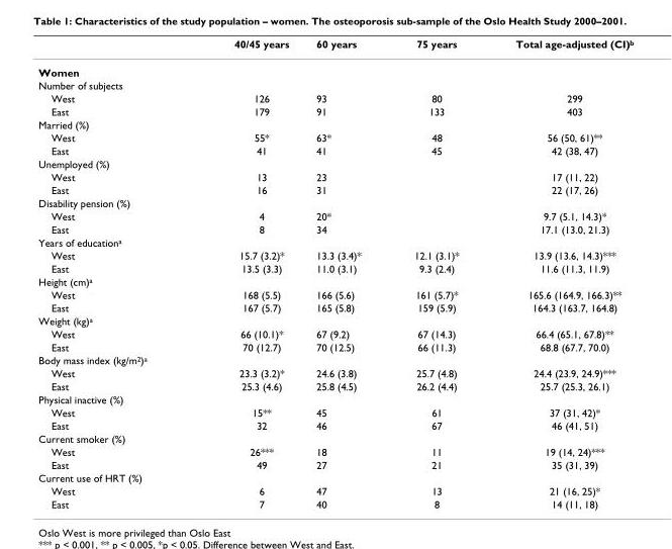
<table><thead><tr><td></td><td>40/45 years</td><td>60 years</td><td>75 years</td><td>Total age-adjusted (CI)<sup>b</sup></td></tr></thead><tbody><tr><td colspan="5">Women</td></tr><tr><td colspan="5">Number of subjects</td></tr><tr><td>West</td><td>126</td><td>93</td><td>80</td><td>299</td></tr><tr><td>East</td><td>179</td><td>91</td><td>133</td><td>403</td></tr><tr><td colspan="5">Married (%)</td></tr><tr><td>West</td><td>55*</td><td>63*</td><td>48</td><td>56 (50, 61)**</td></tr><tr><td>East</td><td>41</td><td>41</td><td>45</td><td>42 (38, 47)</td></tr><tr><td colspan="5">Unemployed (%)</td></tr><tr><td>West</td><td>13</td><td>23</td><td></td><td>17 (11, 22)</td></tr><tr><td>East</td><td>16</td><td>31</td><td></td><td>22 (17, 26)</td></tr><tr><td colspan="5">Disability pension (%)</td></tr><tr><td>West</td><td>4</td><td>20*</td><td></td><td>9.7 (5.1, 14.3)*</td></tr><tr><td>East</td><td>8</td><td>34</td><td></td><td>17.1 (13.0, 21.3)</td></tr><tr><td colspan="5">Years of education<sup>a</sup></td></tr><tr><td>West</td><td>15.7 (3.2)*</td><td>13.3 (3.4)*</td><td>12.1 (3.1)*</td><td>13.9 (13.6, 14.3)***</td></tr><tr><td>East</td><td>13.5 (3.3)</td><td>11.0 (3.1)</td><td>9.3 (2.4)</td><td>11.6 (11.3, 11.9)</td></tr><tr><td colspan="5">Height (cm)<sup>a</sup></td></tr><tr><td>West</td><td>168 (5.5)</td><td>166 (5.6)</td><td>161 (5.7)*</td><td>165.6 (164.9, 166.3)**</td></tr><tr><td>East</td><td>167 (5.7)</td><td>165 (5.8)</td><td>159 (5.9)</td><td>164.3 (163.7, 164.8)</td></tr><tr><td colspan="5">Weight (kg)<sup>a</sup></td></tr><tr><td>West</td><td>66 (10.1)*</td><td>67 (9.2)</td><td>67 (14.3)</td><td>66.4 (65.1, 67.8)**</td></tr><tr><td>East</td><td>70 (12.7)</td><td>70 (12.5)</td><td>66 (11.3)</td><td>68.8 (67.7, 70.0)</td></tr><tr><td colspan="5">Body mass index (kg/m<sup>2</sup>)<sup>a</sup></td></tr><tr><td>West</td><td>23.3 (3.2)*</td><td>24.6 (3.8)</td><td>25.7 (4.8)</td><td>24.4 (23.9, 24.9)***</td></tr><tr><td>East</td><td>25.3 (4.6)</td><td>25.8 (4.5)</td><td>26.2 (4.4)</td><td>25.7 (25.3, 26.1)</td></tr><tr><td colspan="5">Physical inactive (%)</td></tr><tr><td>West</td><td>15**</td><td>45</td><td>61</td><td>37 (31, 42)*</td></tr><tr><td>East</td><td>32</td><td>46</td><td>67</td><td>46 (41, 51)</td></tr><tr><td colspan="5">Current smoker (%)</td></tr><tr><td>West</td><td>26***</td><td>18</td><td>11</td><td>19 (14, 24)***</td></tr><tr><td>East</td><td>49</td><td>27</td><td>21</td><td>35 (31, 39)</td></tr><tr><td colspan="5">Current use of HRT (%)</td></tr><tr><td>West</td><td>6</td><td>47</td><td>13</td><td>21 (16, 25)*</td></tr><tr><td>East</td><td>7</td><td>40</td><td>8</td><td>14 (11, 18)</td></tr></tbody></table>